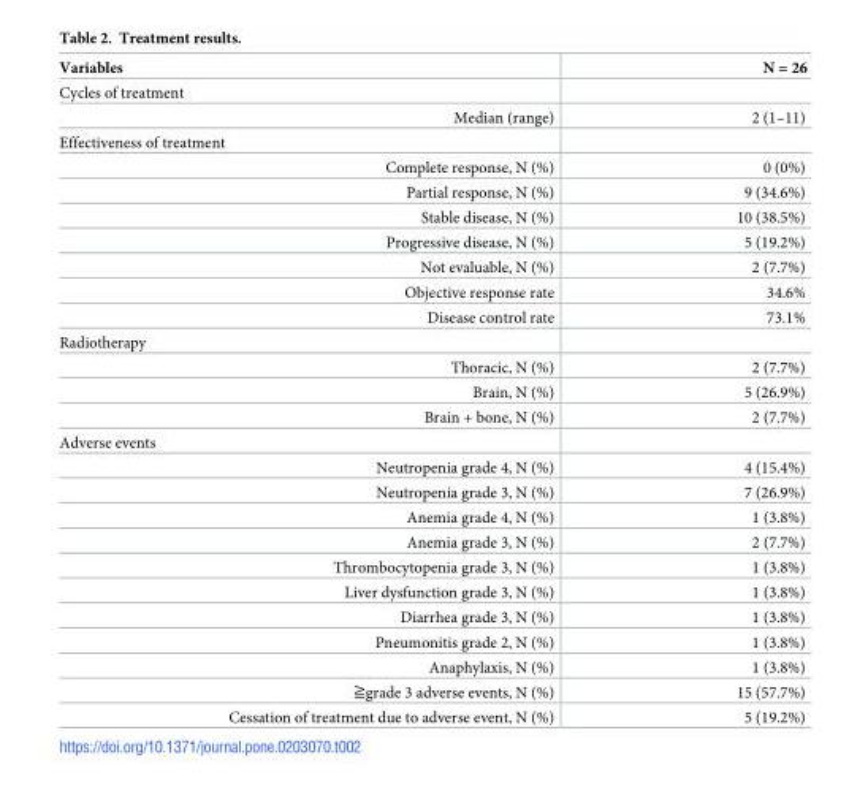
<table><thead><tr><td>Variables</td><td>N = 26</td></tr></thead><tbody><tr><td colspan="2">Cycles of treatment</td></tr><tr><td>Median (range)</td><td>2 (1–11)</td></tr><tr><td colspan="2">Effectiveness of treatment</td></tr><tr><td>Complete response, N (%)</td><td>0 (0%)</td></tr><tr><td>Partial response, N (%)</td><td>9 (34.6%)</td></tr><tr><td>Stable disease, N (%)</td><td>10 (38.5%)</td></tr><tr><td>Progressive disease, N (%)</td><td>5 (19.2%)</td></tr><tr><td>Not evaluable, N (%)</td><td>2 (7.7%)</td></tr><tr><td>Objective response rate</td><td>34.6%</td></tr><tr><td>Disease control rate</td><td>73.1%</td></tr><tr><td colspan="2">Radiotherapy</td></tr><tr><td>Thoracic, N (%)</td><td>2 (7.7%)</td></tr><tr><td>Brain, N (%)</td><td>5 (26.9%)</td></tr><tr><td>Brain + bone, N (%)</td><td>2 (7.7%)</td></tr><tr><td colspan="2">Adverse events</td></tr><tr><td>Neutropenia grade 4, N (%)</td><td>4 (15.4%)</td></tr><tr><td>Neutropenia grade 3, N (%)</td><td>7 (26.9%)</td></tr><tr><td>Anemia grade 4, N (%)</td><td>1 (3.8%)</td></tr><tr><td>Anemia grade 3, N (%)</td><td>2 (7.7%)</td></tr><tr><td>Thrombocytopenia grade 3, N (%)</td><td>1 (3.8%)</td></tr><tr><td>Liver dysfunction grade 3, N (%)</td><td>1 (3.8%)</td></tr><tr><td>Diarrhea grade 3, N (%)</td><td>1 (3.8%)</td></tr><tr><td>Pneumonitis grade 2, N (%)</td><td>1 (3.8%)</td></tr><tr><td>Anaphylaxis, N (%)</td><td>1 (3.8%)</td></tr><tr><td>≧grade 3 adverse events, N (%)</td><td>15 (57.7%)</td></tr><tr><td>Cessation of treatment due to adverse event, N (%)</td><td>5 (19.2%)</td></tr></tbody></table>